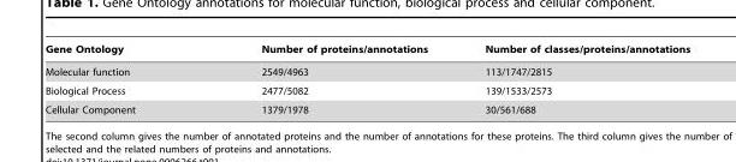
<table><thead><tr><td>Gene Ontology</td><td>Number of proteins/annotations</td><td>Number of classes/proteins/annotations</td></tr></thead><tbody><tr><td>Molecular function</td><td>2549/4963</td><td>113/1747/2815</td></tr><tr><td>Biological Process</td><td>2477/5082</td><td>139/1533/2573</td></tr><tr><td>Cellular Component</td><td>1379/1978</td><td>30/561/688</td></tr></tbody></table>